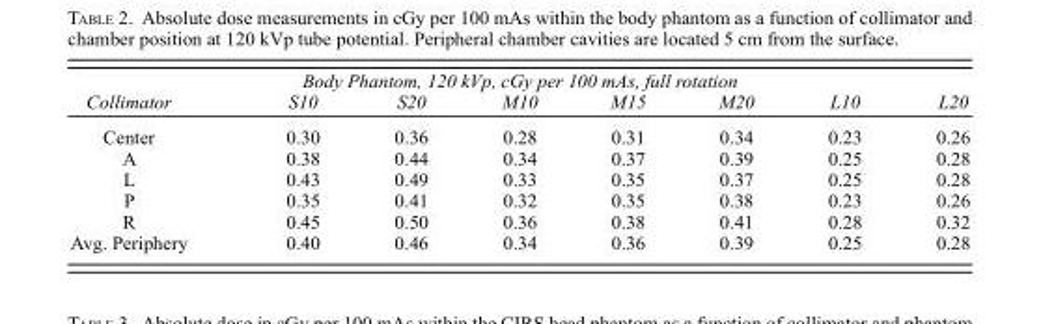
<table><thead><tr><td rowspan="2">Collimator</td><td colspan="5">Body Phantom, 120 kVp, cGy per 100 mAs, full rotation</td><td rowspan="2">L10</td><td rowspan="2">L20</td></tr><tr><td>S10</td><td>S20</td><td>M10</td><td>M15</td><td>M20</td></tr></thead><tbody><tr><td>Center</td><td>0.30</td><td>0.36</td><td>0.28</td><td>0.31</td><td>0.34</td><td>0.23</td><td>0.26</td></tr><tr><td>A</td><td>0.38</td><td>0.44</td><td>0.34</td><td>0.37</td><td>0.39</td><td>0.25</td><td>0.28</td></tr><tr><td>L</td><td>0.43</td><td>0.49</td><td>0.33</td><td>0.35</td><td>0.37</td><td>0.25</td><td>0.28</td></tr><tr><td>P</td><td>0.35</td><td>0.41</td><td>0.32</td><td>0.35</td><td>0.38</td><td>0.23</td><td>0.26</td></tr><tr><td>R</td><td>0.45</td><td>0.50</td><td>0.36</td><td>0.38</td><td>0.41</td><td>0.28</td><td>0.32</td></tr><tr><td>Avg. Periphery</td><td>0.40</td><td>0.46</td><td>0.34</td><td>0.36</td><td>0.39</td><td>0.25</td><td>0.28</td></tr></tbody></table>